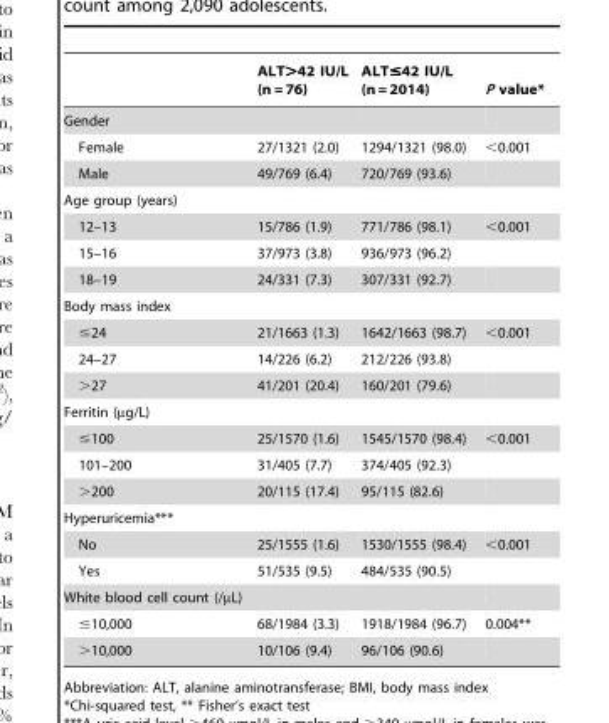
<table><thead><tr><td></td><td>ALT&gt;42 IU/L (n = 76)</td><td>ALT≤42 IU/L (n = 2014)</td><td>P value*</td></tr></thead><tbody><tr><td colspan="4">Gender</td></tr><tr><td>Female</td><td>27/1321 (2.0)</td><td>1294/1321 (98.0)</td><td>&lt;0.001</td></tr><tr><td>Male</td><td>49/769 (6.4)</td><td>720/769 (93.6)</td><td></td></tr><tr><td colspan="4">Age group (years)</td></tr><tr><td>12–13</td><td>15/786 (1.9)</td><td>771/786 (98.1)</td><td>&lt;0.001</td></tr><tr><td>15–16</td><td>37/973 (3.8)</td><td>936/973 (96.2)</td><td></td></tr><tr><td>18–19</td><td>24/331 (7.3)</td><td>307/331 (92.7)</td><td></td></tr><tr><td colspan="4">Body mass index</td></tr><tr><td>≤24</td><td>21/1663 (1.3)</td><td>1642/1663 (98.7)</td><td>&lt;0.001</td></tr><tr><td>24–27</td><td>14/226 (6.2)</td><td>212/226 (93.8)</td><td></td></tr><tr><td>&gt;27</td><td>41/201 (20.4)</td><td>160/201 (79.6)</td><td></td></tr><tr><td colspan="4">Ferritin (µg/L)</td></tr><tr><td>≤100</td><td>25/1570 (1.6)</td><td>1545/1570 (98.4)</td><td>&lt;0.001</td></tr><tr><td>101–200</td><td>31/405 (7.7)</td><td>374/405 (92.3)</td><td></td></tr><tr><td>&gt;200</td><td>20/115 (17.4)</td><td>95/115 (82.6)</td><td></td></tr><tr><td colspan="4">Hyperuricemia***</td></tr><tr><td>No</td><td>25/1555 (1.6)</td><td>1530/1555 (98.4)</td><td>&lt;0.001</td></tr><tr><td>Yes</td><td>51/535 (9.5)</td><td>484/535 (90.5)</td><td></td></tr><tr><td colspan="4">White blood cell count (/µL)</td></tr><tr><td>≤10,000</td><td>68/1984 (3.3)</td><td>1918/1984 (96.7)</td><td>0.004**</td></tr><tr><td>&gt;10,000</td><td>10/106 (9.4)</td><td>96/106 (90.6)</td><td></td></tr></tbody></table>